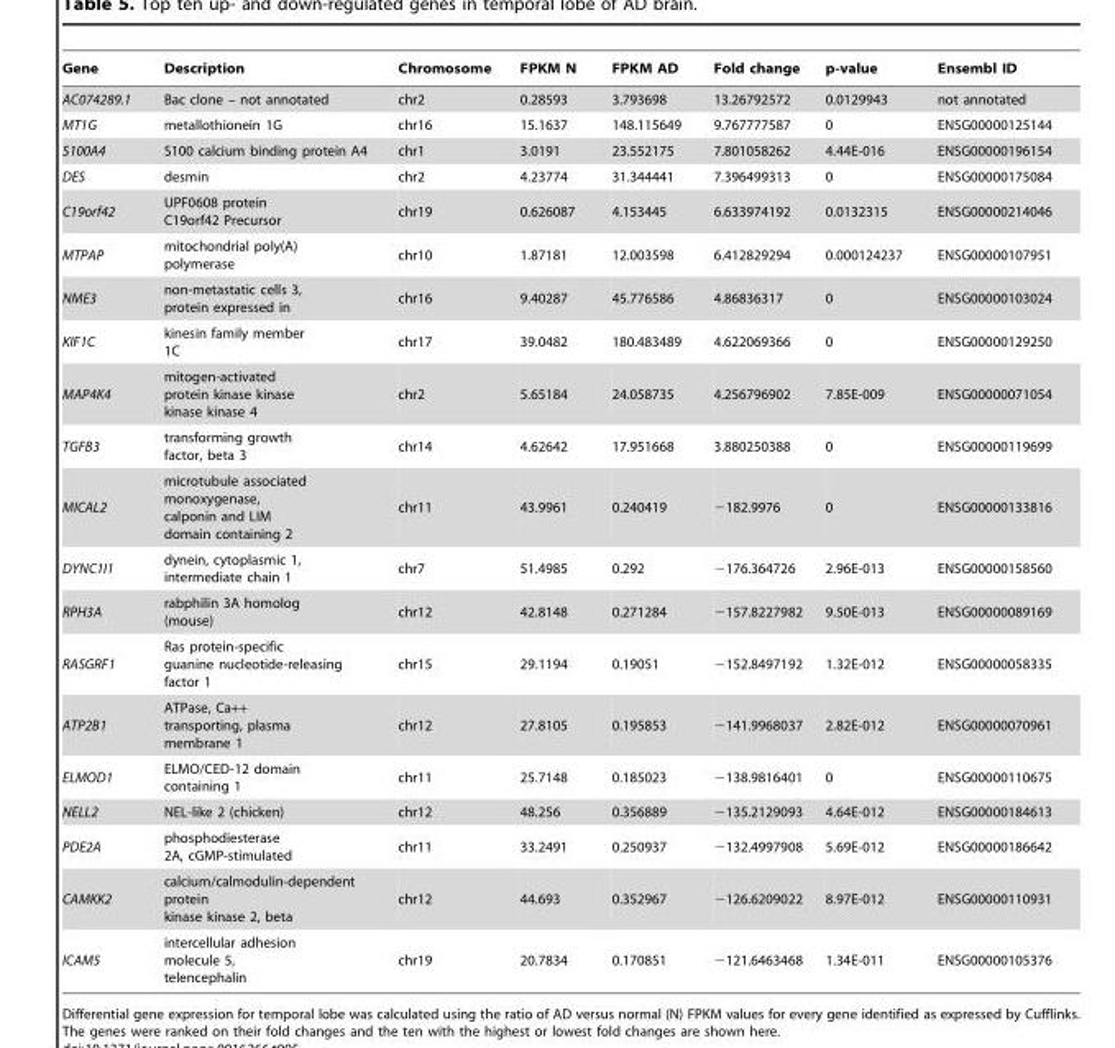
<table><thead><tr><td>Gene</td><td>Description</td><td>Chromosome</td><td>FPKM N</td><td>FPKM AD</td><td>Fold change</td><td>p-value</td><td>Ensembl ID</td></tr></thead><tbody><tr><td>AC074289.1</td><td>Bac clone – not annotated</td><td>chr2</td><td>0.28593</td><td>3.793698</td><td>13.26792572</td><td>0.0129943</td><td>not annotated</td></tr><tr><td>MT1G</td><td>metallothionein 1G</td><td>chr16</td><td>15.1637</td><td>148.115649</td><td>9.767777587</td><td>0</td><td>ENSG00000125144</td></tr><tr><td>S100A4</td><td>S100 calcium binding protein A4</td><td>chr1</td><td>3.0191</td><td>23.552175</td><td>7.801058262</td><td>4.44E-016</td><td>ENSG00000196154</td></tr><tr><td>DES</td><td>desmin</td><td>chr2</td><td>4.23774</td><td>31.344441</td><td>7.396499313</td><td>0</td><td>ENSG00000175084</td></tr><tr><td>C19orf42</td><td>UPF0608 protein C19orf42 Precursor</td><td>chr19</td><td>0.626087</td><td>4.153445</td><td>6.633974192</td><td>0.0132315</td><td>ENSG00000214046</td></tr><tr><td>MTPAP</td><td>mitochondrial poly(A) polymerase</td><td>chr10</td><td>1.87181</td><td>12.003598</td><td>6.412829294</td><td>0.000124237</td><td>ENSG00000107951</td></tr><tr><td>NME3</td><td>non-metastatic cells 3, protein expressed in</td><td>chr16</td><td>9.40287</td><td>45.776586</td><td>4.86836317</td><td>0</td><td>ENSG00000103024</td></tr><tr><td>KIF1C</td><td>kinesin family member 1C</td><td>chr17</td><td>39.0482</td><td>180.483489</td><td>4.622069366</td><td>0</td><td>ENSG00000129250</td></tr><tr><td>MAP4K4</td><td>mitogen-activated protein kinase kinase kinase kinase 4</td><td>chr2</td><td>5.65184</td><td>24.058735</td><td>4.256796902</td><td>7.85E-009</td><td>ENSG00000071054</td></tr><tr><td>TGFB3</td><td>transforming growth factor, beta 3</td><td>chr14</td><td>4.62642</td><td>17.951668</td><td>3.880250388</td><td>0</td><td>ENSG00000119699</td></tr><tr><td>MICAL2</td><td>microtubule associated monoxygenase, calponin and LIM domain containing 2</td><td>chr11</td><td>43.9961</td><td>0.240419</td><td>−182.9976</td><td>0</td><td>ENSG00000133816</td></tr><tr><td>DYNC1I1</td><td>dynein, cytoplasmic 1, intermediate chain 1</td><td>chr7</td><td>51.4985</td><td>0.292</td><td>−176.364726</td><td>2.96E-013</td><td>ENSG00000158560</td></tr><tr><td>RPH3A</td><td>rabphilin 3A homolog (mouse)</td><td>chr12</td><td>42.8148</td><td>0.271284</td><td>−157.8227982</td><td>9.50E-013</td><td>ENSG00000089169</td></tr><tr><td>RASGRF1</td><td>Ras protein-specific guanine nucleotide-releasing factor 1</td><td>chr15</td><td>29.1194</td><td>0.19051</td><td>−152.8497192</td><td>1.32E-012</td><td>ENSG00000058335</td></tr><tr><td>ATP2B1</td><td>ATPase, Ca++ transporting, plasma membrane 1</td><td>chr12</td><td>27.8105</td><td>0.195853</td><td>−141.9968037</td><td>2.82E-012</td><td>ENSG00000070961</td></tr><tr><td>ELMOD1</td><td>ELMO/CED-12 domain containing 1</td><td>chr11</td><td>25.7148</td><td>0.185023</td><td>−138.9816401</td><td>0</td><td>ENSG00000110675</td></tr><tr><td>NELL2</td><td>NEL-like 2 (chicken)</td><td>chr12</td><td>48.256</td><td>0.356889</td><td>−135.2129093</td><td>4.64E-012</td><td>ENSG00000184613</td></tr><tr><td>PDE2A</td><td>phosphodiesterase 2A, cGMP-stimulated</td><td>chr11</td><td>33.2491</td><td>0.250937</td><td>−132.4997908</td><td>5.69E-012</td><td>ENSG00000186642</td></tr><tr><td>CAMKK2</td><td>calcium/calmodulin-dependent protein kinase kinase 2, beta</td><td>chr12</td><td>44.693</td><td>0.352967</td><td>−126.6209022</td><td>8.97E-012</td><td>ENSG00000110931</td></tr><tr><td>ICAM5</td><td>intercellular adhesion molecule 5, telencephalin</td><td>chr19</td><td>20.7834</td><td>0.170851</td><td>−121.6463468</td><td>1.34E-011</td><td>ENSG00000105376</td></tr></tbody></table>